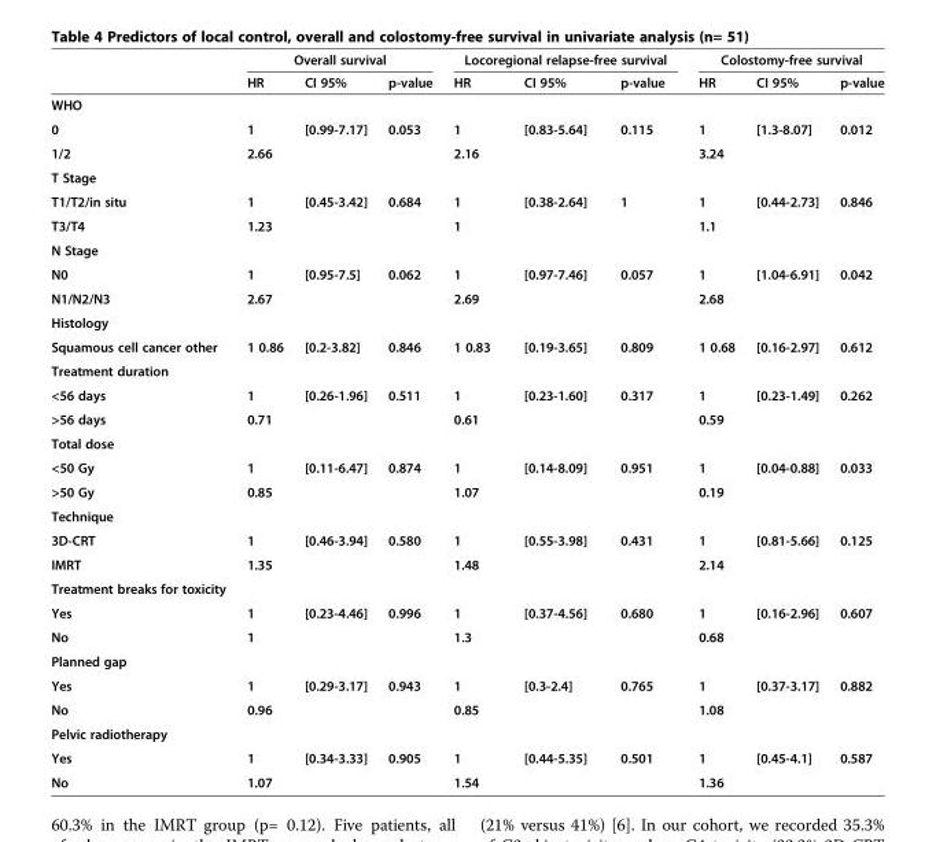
<table><thead><tr><td rowspan="2"></td><td colspan="3">Overall survival</td><td colspan="3">Locoregional relapse-free survival</td><td colspan="3">Colostomy-free survival</td></tr><tr><td>HR</td><td>CI 95%</td><td>p-value</td><td>HR</td><td>CI 95%</td><td>p-value</td><td>HR</td><td>CI 95%</td><td>p-value</td></tr></thead><tbody><tr><td colspan="10">WHO</td></tr><tr><td>0</td><td>1</td><td>[0.99-7.17]</td><td>0.053</td><td>1</td><td>[0.83-5.64]</td><td>0.115</td><td>1</td><td>[1.3-8.07]</td><td>0.012</td></tr><tr><td>1/2</td><td>2.66</td><td></td><td></td><td>2.16</td><td></td><td></td><td>3.24</td><td></td><td></td></tr><tr><td colspan="10">T Stage</td></tr><tr><td>T1/T2/in situ</td><td>1</td><td>[0.45-3.42]</td><td>0.684</td><td>1</td><td>[0.38-2.64]</td><td>1</td><td>1</td><td>[0.44-2.73]</td><td>0.846</td></tr><tr><td>T3/T4</td><td>1.23</td><td></td><td></td><td>1</td><td></td><td></td><td>1.1</td><td></td><td></td></tr><tr><td colspan="10">N Stage</td></tr><tr><td>N0</td><td>1</td><td>[0.95-7.5]</td><td>0.062</td><td>1</td><td>[0.97-7.46]</td><td>0.057</td><td>1</td><td>[1.04-6.91]</td><td>0.042</td></tr><tr><td>N1/N2/N3</td><td>2.67</td><td></td><td></td><td>2.69</td><td></td><td></td><td>2.68</td><td></td><td></td></tr><tr><td colspan="10">Histology</td></tr><tr><td>Squamous cell cancer other</td><td>1 0.86</td><td>[0.2-3.82]</td><td>0.846</td><td>1 0.83</td><td>[0.19-3.65]</td><td>0.809</td><td>1 0.68</td><td>[0.16-2.97]</td><td>0.612</td></tr><tr><td colspan="10">Treatment duration</td></tr><tr><td>&lt;56 days</td><td>1</td><td>[0.26-1.96]</td><td>0.511</td><td>1</td><td>[0.23-1.60]</td><td>0.317</td><td>1</td><td>[0.23-1.49]</td><td>0.262</td></tr><tr><td>&gt;56 days</td><td>0.71</td><td></td><td></td><td>0.61</td><td></td><td></td><td>0.59</td><td></td><td></td></tr><tr><td colspan="10">Total dose</td></tr><tr><td>&lt;50 Gy</td><td>1</td><td>[0.11-6.47]</td><td>0.874</td><td>1</td><td>[0.14-8.09]</td><td>0.951</td><td>1</td><td>[0.04-0.88]</td><td>0.033</td></tr><tr><td>&gt;50 Gy</td><td>0.85</td><td></td><td></td><td>1.07</td><td></td><td></td><td>0.19</td><td></td><td></td></tr><tr><td colspan="10">Technique</td></tr><tr><td>3D-CRT</td><td>1</td><td>[0.46-3.94]</td><td>0.580</td><td>1</td><td>[0.55-3.98]</td><td>0.431</td><td>1</td><td>[0.81-5.66]</td><td>0.125</td></tr><tr><td>IMRT</td><td>1.35</td><td></td><td></td><td>1.48</td><td></td><td></td><td>2.14</td><td></td><td></td></tr><tr><td colspan="10">Treatment breaks for toxicity</td></tr><tr><td>Yes</td><td>1</td><td>[0.23-4.46]</td><td>0.996</td><td>1</td><td>[0.37-4.56]</td><td>0.680</td><td>1</td><td>[0.16-2.96]</td><td>0.607</td></tr><tr><td>No</td><td>1</td><td></td><td></td><td>1.3</td><td></td><td></td><td>0.68</td><td></td><td></td></tr><tr><td colspan="10">Planned gap</td></tr><tr><td>Yes</td><td>1</td><td>[0.29-3.17]</td><td>0.943</td><td>1</td><td>[0.3-2.4]</td><td>0.765</td><td>1</td><td>[0.37-3.17]</td><td>0.882</td></tr><tr><td>No</td><td>0.96</td><td></td><td></td><td>0.85</td><td></td><td></td><td>1.08</td><td></td><td></td></tr><tr><td colspan="10">Pelvic radiotherapy</td></tr><tr><td>Yes</td><td>1</td><td>[0.34-3.33]</td><td>0.905</td><td>1</td><td>[0.44-5.35]</td><td>0.501</td><td>1</td><td>[0.45-4.1]</td><td>0.587</td></tr><tr><td>No</td><td>1.07</td><td></td><td></td><td>1.54</td><td></td><td></td><td>1.36</td><td></td><td></td></tr></tbody></table>